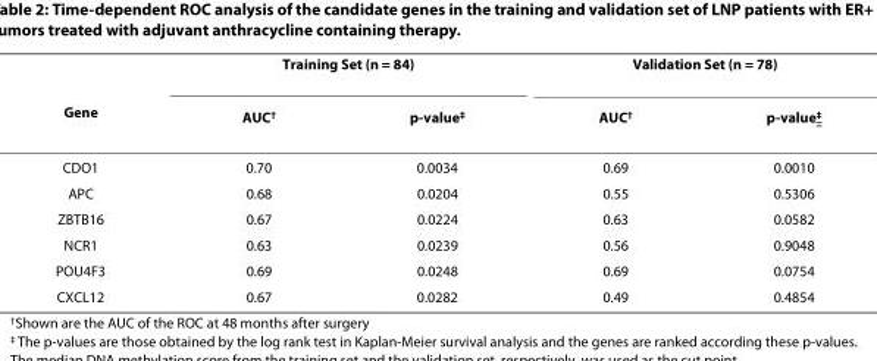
<table><thead><tr><td rowspan="2">Gene</td><td colspan="2">Training Set (n = 84)</td><td colspan="2">Validation Set (n = 78)</td></tr><tr><td>AUC<sup>†</sup></td><td>p-value<sup>‡</sup></td><td>AUC<sup>†</sup></td><td>p-value<sup>‡</sup></td></tr></thead><tbody><tr><td>CDO1</td><td>0.70</td><td>0.0034</td><td>0.69</td><td>0.0010</td></tr><tr><td>APC</td><td>0.68</td><td>0.0204</td><td>0.55</td><td>0.5306</td></tr><tr><td>ZBTB16</td><td>0.67</td><td>0.0224</td><td>0.63</td><td>0.0582</td></tr><tr><td>NCR1</td><td>0.63</td><td>0.0239</td><td>0.56</td><td>0.9048</td></tr><tr><td>POU4F3</td><td>0.69</td><td>0.0248</td><td>0.69</td><td>0.0754</td></tr><tr><td>CXCL12</td><td>0.67</td><td>0.0282</td><td>0.49</td><td>0.4854</td></tr></tbody></table>